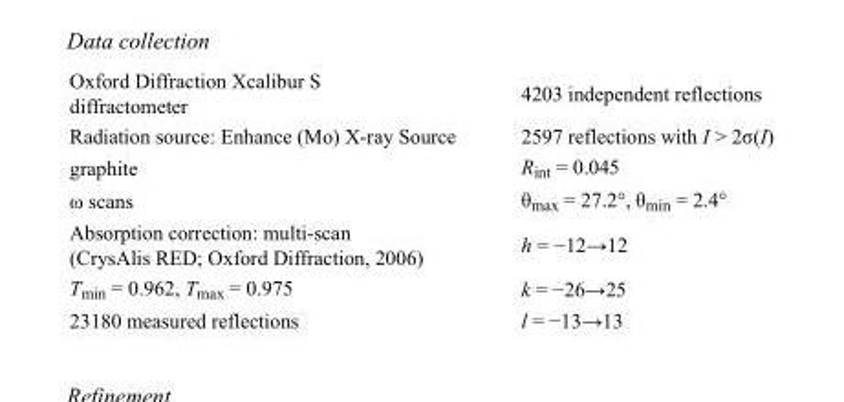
<table><tbody><tr><td>Oxford Diffraction Xcalibur S diffractometer</td><td>4203 independent reflections</td></tr><tr><td>Radiation source: Enhance (Mo) X-ray Source</td><td>2597 reflections with I &gt; 2σ(I)</td></tr><tr><td>graphite</td><td>R<sub>int</sub> = 0.045</td></tr><tr><td>ω scans</td><td>θ<sub>max</sub> = 27.2°, θ<sub>min</sub> = 2.4°</td></tr><tr><td>Absorption correction: multi-scan (CrysAlis RED; Oxford Diffraction, 2006)</td><td>h = −12→12</td></tr><tr><td>T<sub>min</sub> = 0.962, T<sub>max</sub> = 0.975</td><td>k = −26→25</td></tr><tr><td>23180 measured reflections</td><td>l = −13→13</td></tr></tbody></table>